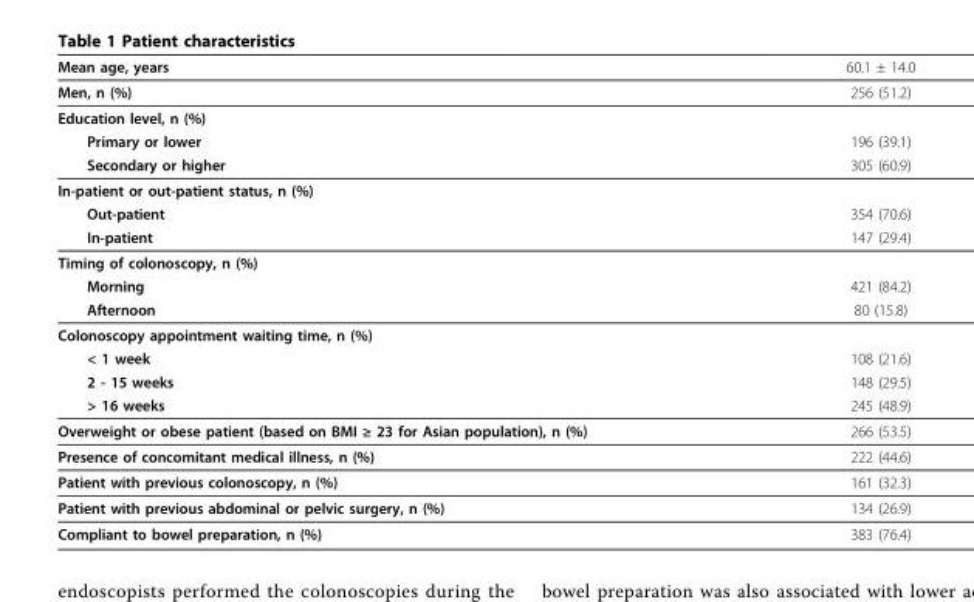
<table><thead><tr><td>Mean age, years</td><td>60.1 ± 14.0</td></tr></thead><tbody><tr><td>Men, n (%)</td><td>256 (51.2)</td></tr><tr><td colspan="2">Education level, n (%)</td></tr><tr><td>Primary or lower</td><td>196 (39.1)</td></tr><tr><td>Secondary or higher</td><td>305 (60.9)</td></tr><tr><td colspan="2">In-patient or out-patient status, n (%)</td></tr><tr><td>Out-patient</td><td>354 (70.6)</td></tr><tr><td>In-patient</td><td>147 (29.4)</td></tr><tr><td colspan="2">Timing of colonoscopy, n (%)</td></tr><tr><td>Morning</td><td>421 (84.2)</td></tr><tr><td>Afternoon</td><td>80 (15.8)</td></tr><tr><td colspan="2">Colonoscopy appointment waiting time, n (%)</td></tr><tr><td>&lt; 1 week</td><td>108 (21.6)</td></tr><tr><td>2 - 15 weeks</td><td>148 (29.5)</td></tr><tr><td>&gt; 16 weeks</td><td>245 (48.9)</td></tr><tr><td>Overweight or obese patient (based on BMI ≥ 23 for Asian population), n (%)</td><td>266 (53.5)</td></tr><tr><td>Presence of concomitant medical illness, n (%)</td><td>222 (44.6)</td></tr><tr><td>Patient with previous colonoscopy, n (%)</td><td>161 (32.3)</td></tr><tr><td>Patient with previous abdominal or pelvic surgery, n (%)</td><td>134 (26.9)</td></tr><tr><td>Compliant to bowel preparation, n (%)</td><td>383 (76.4)</td></tr></tbody></table>